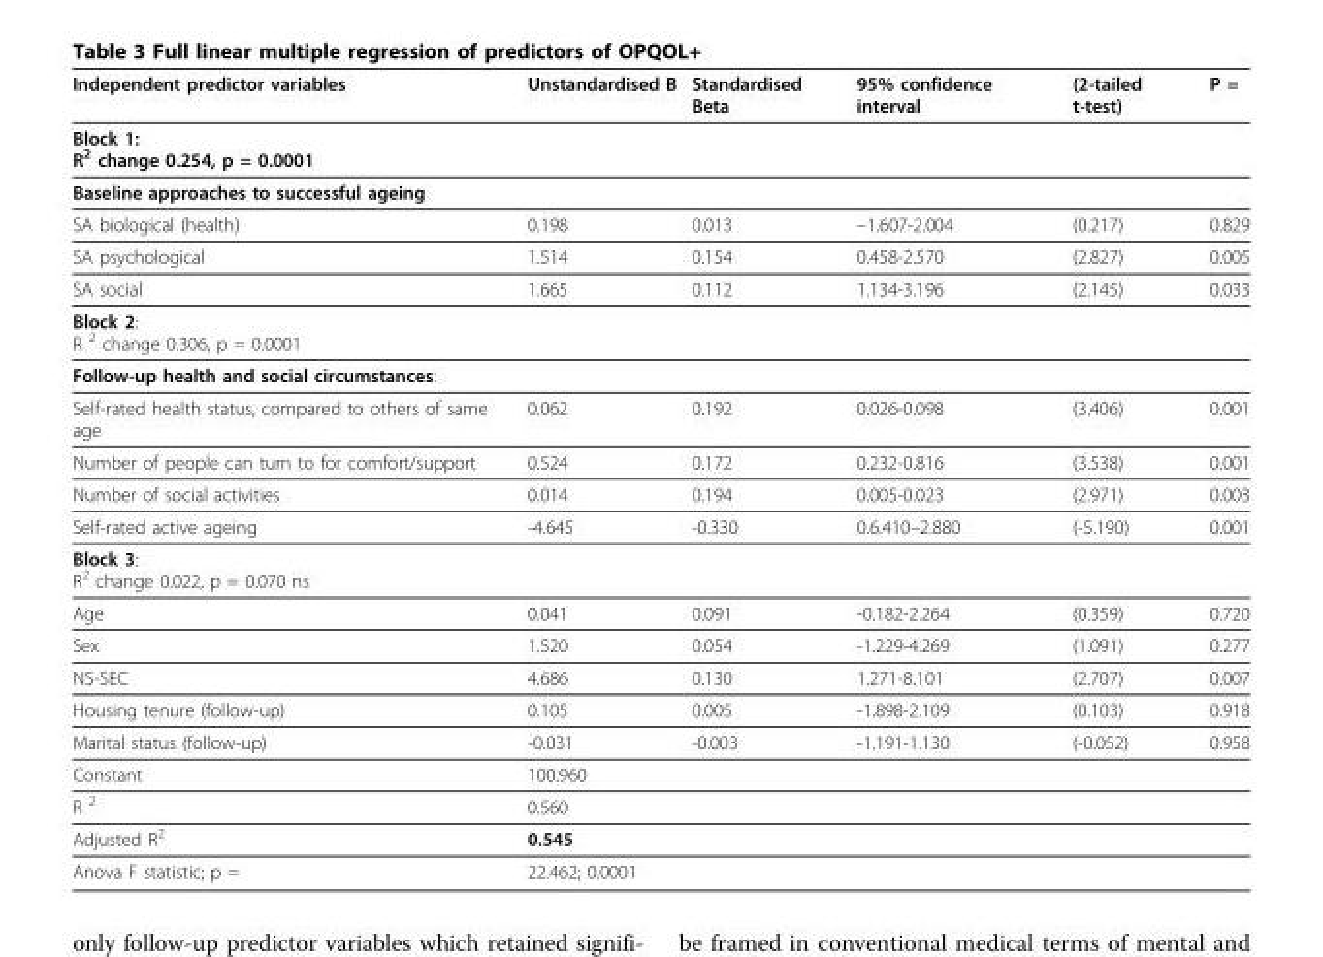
<table><thead><tr><td>Independent predictor variables</td><td>Unstandardised B</td><td>Standardised Beta</td><td>95% confidence interval</td><td>(2-tailed t-test)</td><td>P =</td></tr></thead><tbody><tr><td colspan="6">Block 1: R<sup>2</sup> change 0.254, p = 0.0001</td></tr><tr><td colspan="6">Baseline approaches to successful ageing</td></tr><tr><td>SA biological (health)</td><td>0.198</td><td>0.013</td><td>–1.607-2.004</td><td>(0.217)</td><td>0.829</td></tr><tr><td>SA psychological</td><td>1.514</td><td>0.154</td><td>0.458-2.570</td><td>(2.827)</td><td>0.005</td></tr><tr><td>SA social</td><td>1.665</td><td>0.112</td><td>1.134-3.196</td><td>(2.145)</td><td>0.033</td></tr><tr><td colspan="6">Block 2: R <sup>2</sup> change 0.306, p = 0.0001</td></tr><tr><td colspan="6">Follow-up health and social circumstances:</td></tr><tr><td>Self-rated health status, compared to others of same age</td><td>0.062</td><td>0.192</td><td>0.026-0.098</td><td>(3.406)</td><td>0.001</td></tr><tr><td>Number of people can turn to for comfort/support</td><td>0.524</td><td>0.172</td><td>0.232-0.816</td><td>(3.538)</td><td>0.001</td></tr><tr><td>Number of social activities</td><td>0.014</td><td>0.194</td><td>0.005-0.023</td><td>(2.971)</td><td>0.003</td></tr><tr><td>Self-rated active ageing</td><td>-4.645</td><td>-0.330</td><td>0.6.410–2.880</td><td>(-5.190)</td><td>0.001</td></tr><tr><td colspan="6">Block 3: R<sup>2</sup> change 0.022, p = 0.070 ns</td></tr><tr><td>Age</td><td>0.041</td><td>0.091</td><td>-0.182-2.264</td><td>(0.359)</td><td>0.720</td></tr><tr><td>Sex</td><td>1.520</td><td>0.054</td><td>-1.229-4.269</td><td>(1.091)</td><td>0.277</td></tr><tr><td>NS-SEC</td><td>4.686</td><td>0.130</td><td>1.271-8.101</td><td>(2.707)</td><td>0.007</td></tr><tr><td>Housing tenure (follow-up)</td><td>0.105</td><td>0.005</td><td>-1.898-2.109</td><td>(0.103)</td><td>0.918</td></tr><tr><td>Marital status (follow-up)</td><td>-0.031</td><td>-0.003</td><td>-1.191-1.130</td><td>(-0.052)</td><td>0.958</td></tr><tr><td>Constant</td><td>100.960</td><td></td><td></td><td></td><td></td></tr><tr><td>R <sup>2</sup></td><td>0.560</td><td></td><td></td><td></td><td></td></tr><tr><td>Adjusted R<sup>2</sup></td><td>0.545</td><td></td><td></td><td></td><td></td></tr><tr><td>Anova F statistic; p =</td><td>22.462; 0.0001</td><td></td><td></td><td></td><td></td></tr></tbody></table>